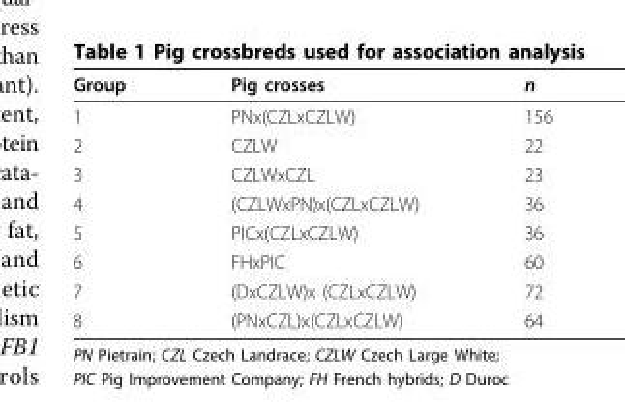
<table><thead><tr><td>Group</td><td>Pig crosses</td><td>n</td></tr></thead><tbody><tr><td>1</td><td>PNx(CZLxCZLW)</td><td>156</td></tr><tr><td>2</td><td>CZLW</td><td>22</td></tr><tr><td>3</td><td>CZLWxCZL</td><td>23</td></tr><tr><td>4</td><td>(CZLWxPN)x(CZLxCZLW)</td><td>36</td></tr><tr><td>5</td><td>PICx(CZLxCZLW)</td><td>36</td></tr><tr><td>6</td><td>FHxPIC</td><td>60</td></tr><tr><td>7</td><td>(DxCZLW)x (CZLxCZLW)</td><td>72</td></tr><tr><td>8</td><td>(PNxCZL)x(CZLxCZLW)</td><td>64</td></tr></tbody></table>